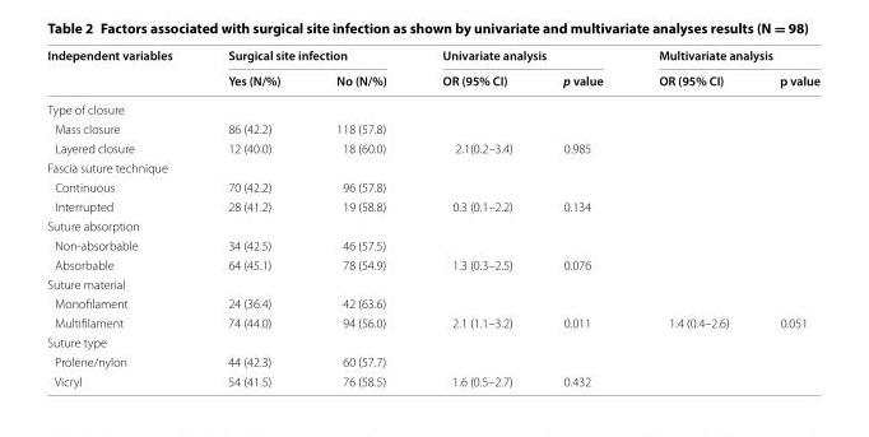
<table><thead><tr><td rowspan="2">Independent variables</td><td colspan="2">Surgical site infection</td><td colspan="2">Univariate analysis</td><td colspan="2">Multivariate analysis</td></tr><tr><td>Yes (N/%)</td><td>No (N/%)</td><td>OR (95% CI)</td><td>p value</td><td>OR (95% CI)</td><td>p value</td></tr></thead><tbody><tr><td colspan="7">Type of closure</td></tr><tr><td>Mass closure</td><td>86 (42.2)</td><td>118 (57.8)</td><td></td><td></td><td></td><td></td></tr><tr><td>Layered closure</td><td>12 (40.0)</td><td>18 (60.0)</td><td>2.1(0.2–3.4)</td><td>0.985</td><td></td><td></td></tr><tr><td colspan="7">Fascia suture technique</td></tr><tr><td>Continuous</td><td>70 (42.2)</td><td>96 (57.8)</td><td></td><td></td><td></td><td></td></tr><tr><td>Interrupted</td><td>28 (41.2)</td><td>19 (58.8)</td><td>0.3 (0.1–2.2)</td><td>0.134</td><td></td><td></td></tr><tr><td colspan="7">Suture absorption</td></tr><tr><td>Non-absorbable</td><td>34 (42.5)</td><td>46 (57.5)</td><td></td><td></td><td></td><td></td></tr><tr><td>Absorbable</td><td>64 (45.1)</td><td>78 (54.9)</td><td>1.3 (0.3–2.5)</td><td>0.076</td><td></td><td></td></tr><tr><td colspan="7">Suture material</td></tr><tr><td>Monofilament</td><td>24 (36.4)</td><td>42 (63.6)</td><td></td><td></td><td></td><td></td></tr><tr><td>Multifilament</td><td>74 (44.0)</td><td>94 (56.0)</td><td>2.1 (1.1–3.2)</td><td>0.011</td><td>1.4 (0.4–2.6)</td><td>0.051</td></tr><tr><td colspan="7">Suture type</td></tr><tr><td>Prolene/nylon</td><td>44 (42.3)</td><td>60 (57.7)</td><td></td><td></td><td></td><td></td></tr><tr><td>Vicryl</td><td>54 (41.5)</td><td>76 (58.5)</td><td>1.6 (0.5–2.7)</td><td>0.432</td><td></td><td></td></tr></tbody></table>